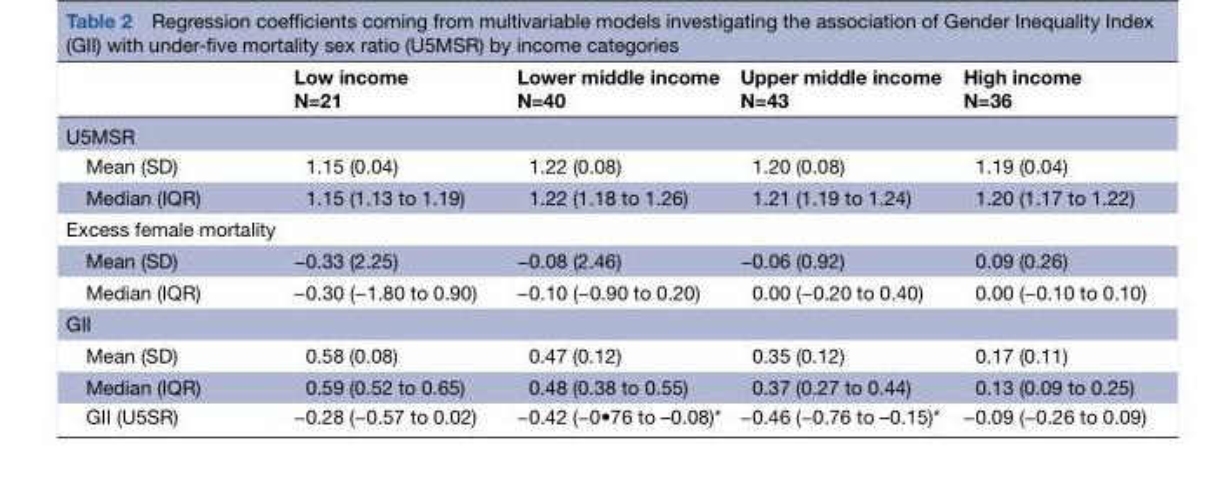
<table><thead><tr><td></td><td>Low income N=21</td><td>Lower middle income N=40</td><td>Upper middle income N=43</td><td>High income N=36</td></tr></thead><tbody><tr><td colspan="5">U5MSR</td></tr><tr><td>Mean (SD)</td><td>1.15 (0.04)</td><td>1.22 (0.08)</td><td>1.20 (0.08)</td><td>1.19 (0.04)</td></tr><tr><td>Median (IQR)</td><td>1.15 (1.13 to 1.19)</td><td>1.22 (1.18 to 1.26)</td><td>1.21 (1.19 to 1.24)</td><td>1.20 (1.17 to 1.22)</td></tr><tr><td colspan="5">Excess female mortality</td></tr><tr><td>Mean (SD)</td><td>−0.33 (2.25)</td><td>−0.08 (2.46)</td><td>−0.06 (0.92)</td><td>0.09 (0.26)</td></tr><tr><td>Median (IQR)</td><td>−0.30 (−1.80 to 0.90)</td><td>−0.10 (−0.90 to 0.20)</td><td>0.00 (−0.20 to 0.40)</td><td>0.00 (−0.10 to 0.10)</td></tr><tr><td colspan="5">GII</td></tr><tr><td>Mean (SD)</td><td>0.58 (0.08)</td><td>0.47 (0.12)</td><td>0.35 (0.12)</td><td>0.17 (0.11)</td></tr><tr><td>Median (IQR)</td><td>0.59 (0.52 to 0.65)</td><td>0.48 (0.38 to 0.55)</td><td>0.37 (0.27 to 0.44)</td><td>0.13 (0.09 to 0.25)</td></tr><tr><td>GII (U5SR)</td><td>−0.28 (−0.57 to 0.02)</td><td>−0.42 (−0•76 to –0.08)*</td><td>−0.46 (−0.76 to –0.15)*</td><td>−0.09 (−0.26 to 0.09)</td></tr></tbody></table>